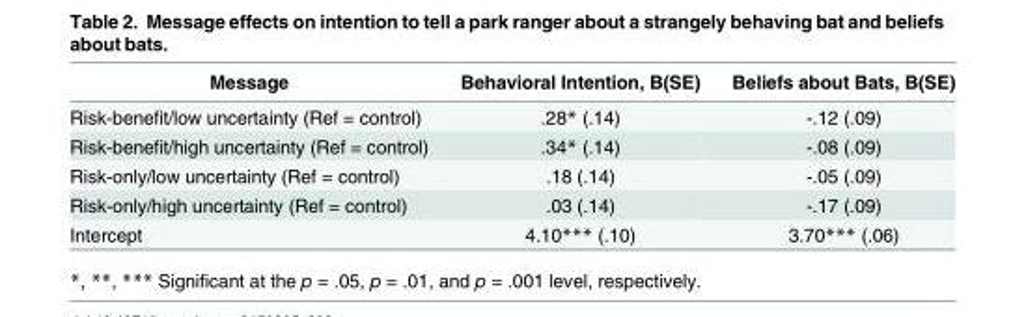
<table><thead><tr><td>Message</td><td>Behavioral Intention, B(SE)</td><td>Beliefs about Bats, B(SE)</td></tr></thead><tbody><tr><td>Risk-benefit/low uncertainty (Ref = control)</td><td>.28* (.14)</td><td>-.12 (.09)</td></tr><tr><td>Risk-benefit/high uncertainty (Ref = control)</td><td>.34* (.14)</td><td>-.08 (.09)</td></tr><tr><td>Risk-only/low uncertainty (Ref = control)</td><td>.18 (.14)</td><td>-.05 (.09)</td></tr><tr><td>Risk-only/high uncertainty (Ref = control)</td><td>.03 (.14)</td><td>-.17 (.09)</td></tr><tr><td>Intercept</td><td>4.10*** (.10)</td><td>3.70*** (.06)</td></tr></tbody></table>